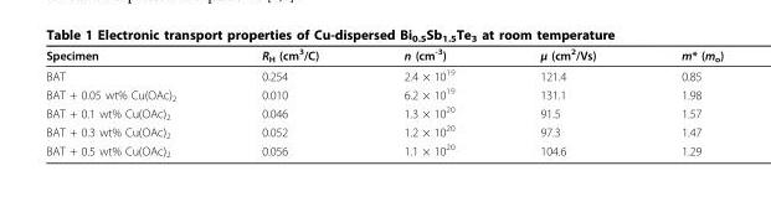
<table><thead><tr><td>Specimen</td><td>R<sub>H</sub> (cm<sup>3</sup>/C)</td><td>n (cm<sup>-3</sup>)</td><td>μ (cm<sup>2</sup>/Vs)</td><td>m* (m<sub>o</sub>)</td></tr></thead><tbody><tr><td>BAT</td><td>0.254</td><td>2.4 × 10<sup>19</sup></td><td>121.4</td><td>0.85</td></tr><tr><td>BAT + 0.05 wt% Cu(OAc)<sub>2</sub></td><td>0.010</td><td>6.2 × 10<sup>19</sup></td><td>131.1</td><td>1.98</td></tr><tr><td>BAT + 0.1 wt% Cu(OAc)<sub>2</sub></td><td>0.046</td><td>1.3 × 10<sup>20</sup></td><td>91.5</td><td>1.57</td></tr><tr><td>BAT + 0.3 wt% Cu(OAc)<sub>2</sub></td><td>0.052</td><td>1.2 × 10<sup>20</sup></td><td>97.3</td><td>1.47</td></tr><tr><td>BAT + 0.5 wt% Cu(OAc)<sub>2</sub></td><td>0.056</td><td>1.1 × 10<sup>20</sup></td><td>104.6</td><td>1.29</td></tr></tbody></table>